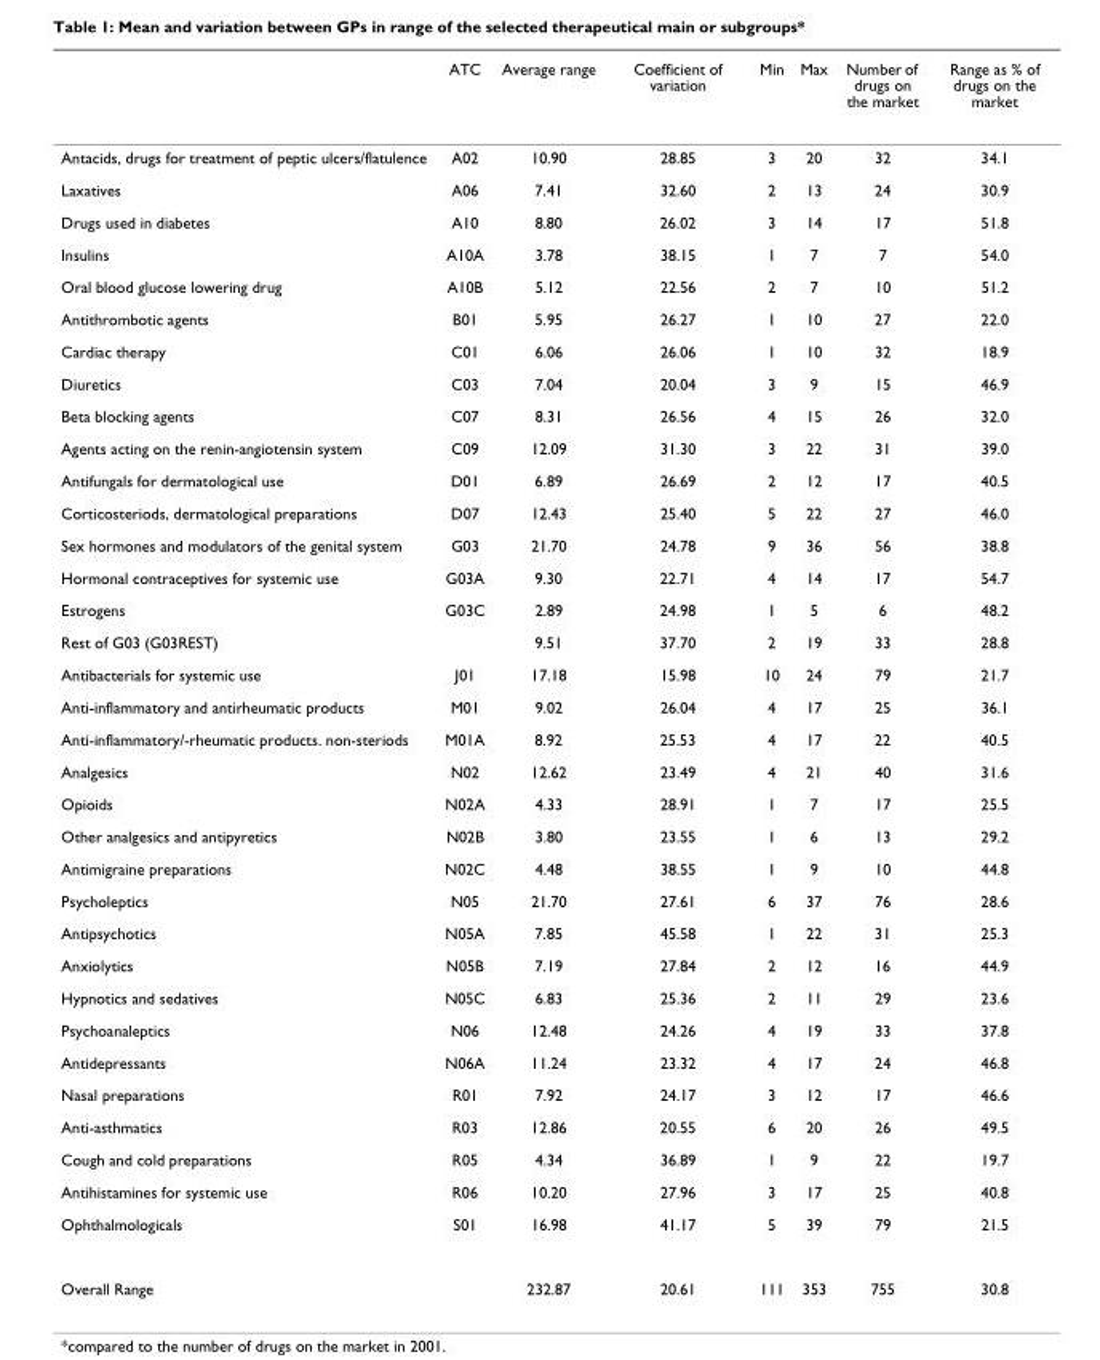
<table><thead><tr><td></td><td>ATC</td><td>Average range</td><td>Coefficient of variation</td><td>Min</td><td>Max</td><td>Number of drugs on the market</td><td>Range as % of drugs on the market</td></tr></thead><tbody><tr><td>Antacids, drugs for treatment of peptic ulcers/flatulence</td><td>A02</td><td>10.90</td><td>28.85</td><td>3</td><td>20</td><td>32</td><td>34.1</td></tr><tr><td>Laxatives</td><td>A06</td><td>7.41</td><td>32.60</td><td>2</td><td>13</td><td>24</td><td>30.9</td></tr><tr><td>Drugs used in diabetes</td><td>A10</td><td>8.80</td><td>26.02</td><td>3</td><td>14</td><td>17</td><td>51.8</td></tr><tr><td>Insulins</td><td>A10A</td><td>3.78</td><td>38.15</td><td>1</td><td>7</td><td>7</td><td>54.0</td></tr><tr><td>Oral blood glucose lowering drug</td><td>A10B</td><td>5.12</td><td>22.56</td><td>2</td><td>7</td><td>10</td><td>51.2</td></tr><tr><td>Antithrombotic agents</td><td>B01</td><td>5.95</td><td>26.27</td><td>1</td><td>10</td><td>27</td><td>22.0</td></tr><tr><td>Cardiac therapy</td><td>C01</td><td>6.06</td><td>26.06</td><td>1</td><td>10</td><td>32</td><td>18.9</td></tr><tr><td>Diuretics</td><td>C03</td><td>7.04</td><td>20.04</td><td>3</td><td>9</td><td>15</td><td>46.9</td></tr><tr><td>Beta blocking agents</td><td>C07</td><td>8.31</td><td>26.56</td><td>4</td><td>15</td><td>26</td><td>32.0</td></tr><tr><td>Agents acting on the renin-angiotensin system</td><td>C09</td><td>12.09</td><td>31.30</td><td>3</td><td>22</td><td>31</td><td>39.0</td></tr><tr><td>Antifungals for dermatological use</td><td>D01</td><td>6.89</td><td>26.69</td><td>2</td><td>12</td><td>17</td><td>40.5</td></tr><tr><td>Corticosteriods, dermatological preparations</td><td>D07</td><td>12.43</td><td>25.40</td><td>5</td><td>22</td><td>27</td><td>46.0</td></tr><tr><td>Sex hormones and modulators of the genital system</td><td>G03</td><td>21.70</td><td>24.78</td><td>9</td><td>36</td><td>56</td><td>38.8</td></tr><tr><td>Hormonal contraceptives for systemic use</td><td>G03A</td><td>9.30</td><td>22.71</td><td>4</td><td>14</td><td>17</td><td>54.7</td></tr><tr><td>Estrogens</td><td>G03C</td><td>2.89</td><td>24.98</td><td>1</td><td>5</td><td>6</td><td>48.2</td></tr><tr><td>Rest of G03 (G03REST)</td><td></td><td>9.51</td><td>37.70</td><td>2</td><td>19</td><td>33</td><td>28.8</td></tr><tr><td>Antibacterials for systemic use</td><td>J01</td><td>17.18</td><td>15.98</td><td>10</td><td>24</td><td>79</td><td>21.7</td></tr><tr><td>Anti-inflammatory and antirheumatic products</td><td>M01</td><td>9.02</td><td>26.04</td><td>4</td><td>17</td><td>25</td><td>36.1</td></tr><tr><td>Anti-inflammatory/-rheumatic products. non-steriods</td><td>M01A</td><td>8.92</td><td>25.53</td><td>4</td><td>17</td><td>22</td><td>40.5</td></tr><tr><td>Analgesics</td><td>N02</td><td>12.62</td><td>23.49</td><td>4</td><td>21</td><td>40</td><td>31.6</td></tr><tr><td>Opioids</td><td>N02A</td><td>4.33</td><td>28.91</td><td>1</td><td>7</td><td>17</td><td>25.5</td></tr><tr><td>Other analgesics and antipyretics</td><td>N02B</td><td>3.80</td><td>23.55</td><td>1</td><td>6</td><td>13</td><td>29.2</td></tr><tr><td>Antimigraine preparations</td><td>N02C</td><td>4.48</td><td>38.55</td><td>1</td><td>9</td><td>10</td><td>44.8</td></tr><tr><td>Psycholeptics</td><td>N05</td><td>21.70</td><td>27.61</td><td>6</td><td>37</td><td>76</td><td>28.6</td></tr><tr><td>Antipsychotics</td><td>N05A</td><td>7.85</td><td>45.58</td><td>1</td><td>22</td><td>31</td><td>25.3</td></tr><tr><td>Anxiolytics</td><td>N05B</td><td>7.19</td><td>27.84</td><td>2</td><td>12</td><td>16</td><td>44.9</td></tr><tr><td>Hypnotics and sedatives</td><td>N05C</td><td>6.83</td><td>25.36</td><td>2</td><td>11</td><td>29</td><td>23.6</td></tr><tr><td>Psychoanaleptics</td><td>N06</td><td>12.48</td><td>24.26</td><td>4</td><td>19</td><td>33</td><td>37.8</td></tr><tr><td>Antidepressants</td><td>N06A</td><td>11.24</td><td>23.32</td><td>4</td><td>17</td><td>24</td><td>46.8</td></tr><tr><td>Nasal preparations</td><td>R01</td><td>7.92</td><td>24.17</td><td>3</td><td>12</td><td>17</td><td>46.6</td></tr><tr><td>Anti-asthmatics</td><td>R03</td><td>12.86</td><td>20.55</td><td>6</td><td>20</td><td>26</td><td>49.5</td></tr><tr><td>Cough and cold preparations</td><td>R05</td><td>4.34</td><td>36.89</td><td>1</td><td>9</td><td>22</td><td>19.7</td></tr><tr><td>Antihistamines for systemic use</td><td>R06</td><td>10.20</td><td>27.96</td><td>3</td><td>17</td><td>25</td><td>40.8</td></tr><tr><td>Ophthalmologicals</td><td>S01</td><td>16.98</td><td>41.17</td><td>5</td><td>39</td><td>79</td><td>21.5</td></tr><tr><td>Overall Range</td><td></td><td>232.87</td><td>20.61</td><td>111</td><td>353</td><td>755</td><td>30.8</td></tr></tbody></table>